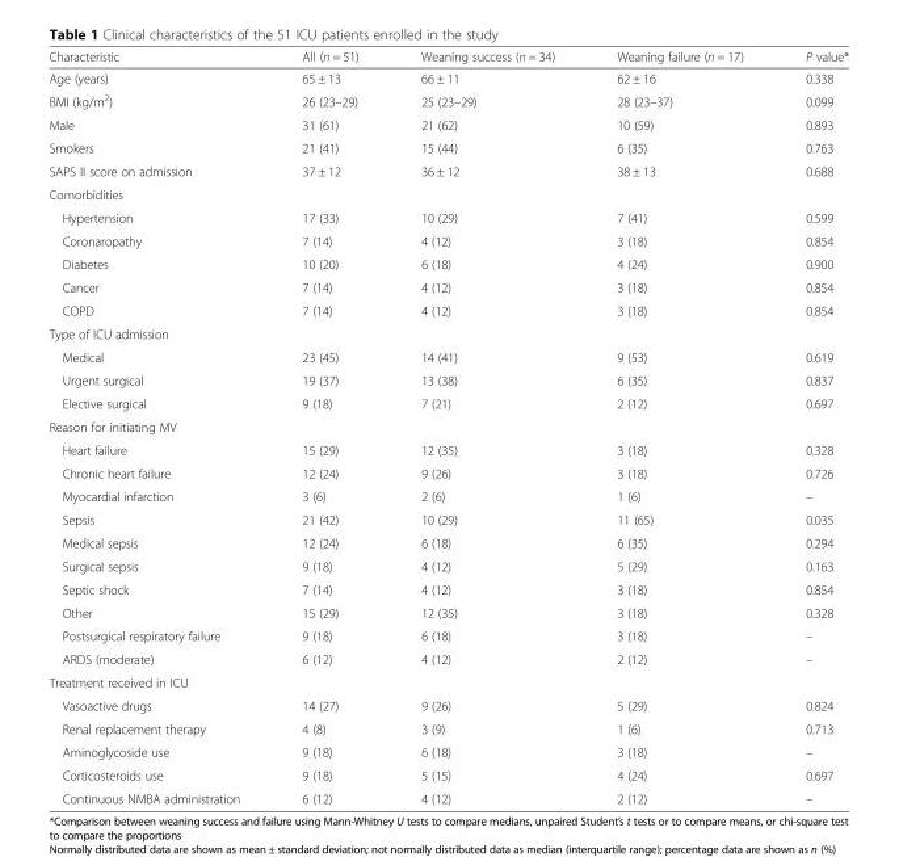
<table><thead><tr><td>Characteristic</td><td>All (n = 51)</td><td>Weaning success (n = 34)</td><td>Weaning failure (n = 17)</td><td>P value*</td></tr></thead><tbody><tr><td>Age (years)</td><td>65 ± 13</td><td>66 ± 11</td><td>62 ± 16</td><td>0.338</td></tr><tr><td>BMI (kg/m<sup>2</sup>)</td><td>26 (23–29)</td><td>25 (23–29)</td><td>28 (23–37)</td><td>0.099</td></tr><tr><td>Male</td><td>31 (61)</td><td>21 (62)</td><td>10 (59)</td><td>0.893</td></tr><tr><td>Smokers</td><td>21 (41)</td><td>15 (44)</td><td>6 (35)</td><td>0.763</td></tr><tr><td>SAPS II score on admission</td><td>37 ± 12</td><td>36 ± 12</td><td>38 ± 13</td><td>0.688</td></tr><tr><td colspan="5">Comorbidities</td></tr><tr><td>Hypertension</td><td>17 (33)</td><td>10 (29)</td><td>7 (41)</td><td>0.599</td></tr><tr><td>Coronaropathy</td><td>7 (14)</td><td>4 (12)</td><td>3 (18)</td><td>0.854</td></tr><tr><td>Diabetes</td><td>10 (20)</td><td>6 (18)</td><td>4 (24)</td><td>0.900</td></tr><tr><td>Cancer</td><td>7 (14)</td><td>4 (12)</td><td>3 (18)</td><td>0.854</td></tr><tr><td>COPD</td><td>7 (14)</td><td>4 (12)</td><td>3 (18)</td><td>0.854</td></tr><tr><td colspan="5">Type of ICU admission</td></tr><tr><td>Medical</td><td>23 (45)</td><td>14 (41)</td><td>9 (53)</td><td>0.619</td></tr><tr><td>Urgent surgical</td><td>19 (37)</td><td>13 (38)</td><td>6 (35)</td><td>0.837</td></tr><tr><td>Elective surgical</td><td>9 (18)</td><td>7 (21)</td><td>2 (12)</td><td>0.697</td></tr><tr><td colspan="5">Reason for initiating MV</td></tr><tr><td>Heart failure</td><td>15 (29)</td><td>12 (35)</td><td>3 (18)</td><td>0.328</td></tr><tr><td>Chronic heart failure</td><td>12 (24)</td><td>9 (26)</td><td>3 (18)</td><td>0.726</td></tr><tr><td>Myocardial infarction</td><td>3 (6)</td><td>2 (6)</td><td>1 (6)</td><td>–</td></tr><tr><td>Sepsis</td><td>21 (42)</td><td>10 (29)</td><td>11 (65)</td><td>0.035</td></tr><tr><td>Medical sepsis</td><td>12 (24)</td><td>6 (18)</td><td>6 (35)</td><td>0.294</td></tr><tr><td>Surgical sepsis</td><td>9 (18)</td><td>4 (12)</td><td>5 (29)</td><td>0.163</td></tr><tr><td>Septic shock</td><td>7 (14)</td><td>4 (12)</td><td>3 (18)</td><td>0.854</td></tr><tr><td>Other</td><td>15 (29)</td><td>12 (35)</td><td>3 (18)</td><td>0.328</td></tr><tr><td>Postsurgical respiratory failure</td><td>9 (18)</td><td>6 (18)</td><td>3 (18)</td><td>–</td></tr><tr><td>ARDS (moderate)</td><td>6 (12)</td><td>4 (12)</td><td>2 (12)</td><td>–</td></tr><tr><td colspan="5">Treatment received in ICU</td></tr><tr><td>Vasoactive drugs</td><td>14 (27)</td><td>9 (26)</td><td>5 (29)</td><td>0.824</td></tr><tr><td>Renal replacement therapy</td><td>4 (8)</td><td>3 (9)</td><td>1 (6)</td><td>0.713</td></tr><tr><td>Aminoglycoside use</td><td>9 (18)</td><td>6 (18)</td><td>3 (18)</td><td>–</td></tr><tr><td>Corticosteroids use</td><td>9 (18)</td><td>5 (15)</td><td>4 (24)</td><td>0.697</td></tr><tr><td>Continuous NMBA administration</td><td>6 (12)</td><td>4 (12)</td><td>2 (12)</td><td>–</td></tr></tbody></table>